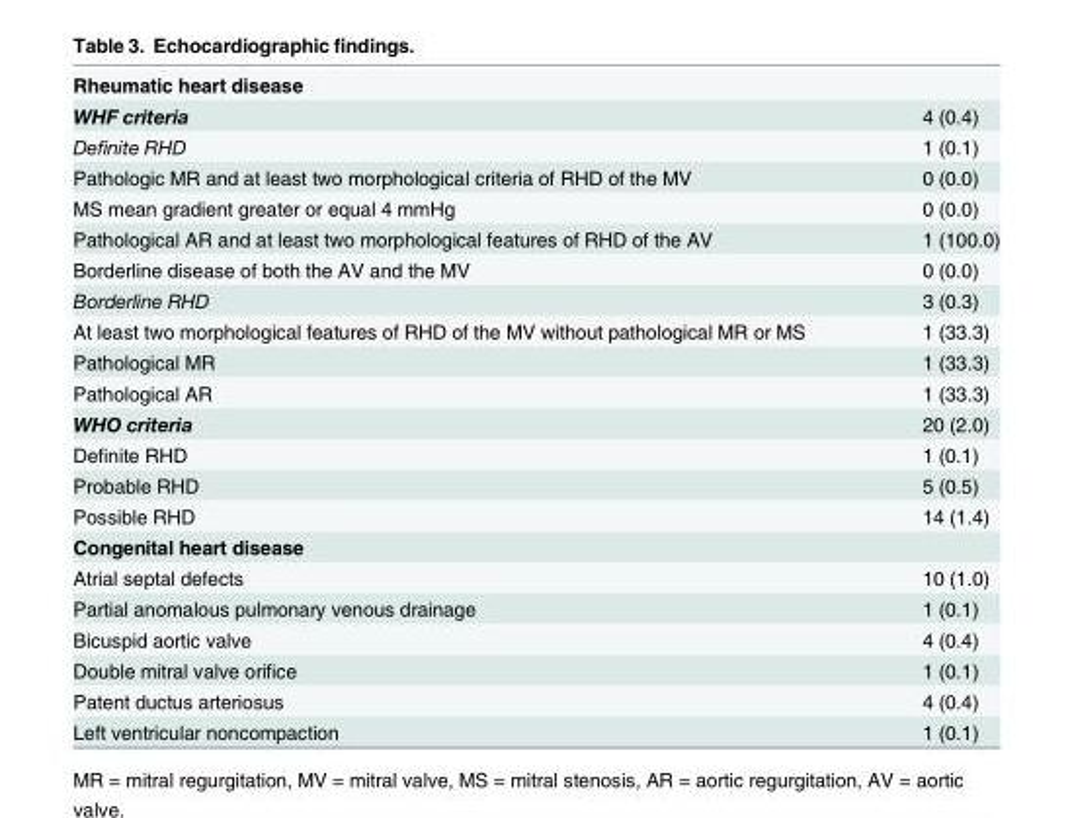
<table><tbody><tr><td colspan="2">Rheumatic heart disease</td></tr><tr><td>WHF criteria</td><td>4 (0.4)</td></tr><tr><td>Definite RHD</td><td>1 (0.1)</td></tr><tr><td>Pathologic MR and at least two morphological criteria of RHD of the MV</td><td>0 (0.0)</td></tr><tr><td>MS mean gradient greater or equal 4 mmHg</td><td>0 (0.0)</td></tr><tr><td>Pathological AR and at least two morphological features of RHD of the AV</td><td>1 (100.0)</td></tr><tr><td>Borderline disease of both the AV and the MV</td><td>0 (0.0)</td></tr><tr><td>Borderline RHD</td><td>3 (0.3)</td></tr><tr><td>At least two morphological features of RHD of the MV without pathological MR or MS</td><td>1 (33.3)</td></tr><tr><td>Pathological MR</td><td>1 (33.3)</td></tr><tr><td>Pathological AR</td><td>1 (33.3)</td></tr><tr><td>WHO criteria</td><td>20 (2.0)</td></tr><tr><td>Definite RHD</td><td>1 (0.1)</td></tr><tr><td>Probable RHD</td><td>5 (0.5)</td></tr><tr><td>Possible RHD</td><td>14 (1.4)</td></tr><tr><td colspan="2">Congenital heart disease</td></tr><tr><td>Atrial septal defects</td><td>10 (1.0)</td></tr><tr><td>Partial anomalous pulmonary venous drainage</td><td>1 (0.1)</td></tr><tr><td>Bicuspid aortic valve</td><td>4 (0.4)</td></tr><tr><td>Double mitral valve orifice</td><td>1 (0.1)</td></tr><tr><td>Patent ductus arteriosus</td><td>4 (0.4)</td></tr><tr><td>Left ventricular noncompaction</td><td>1 (0.1)</td></tr></tbody></table>